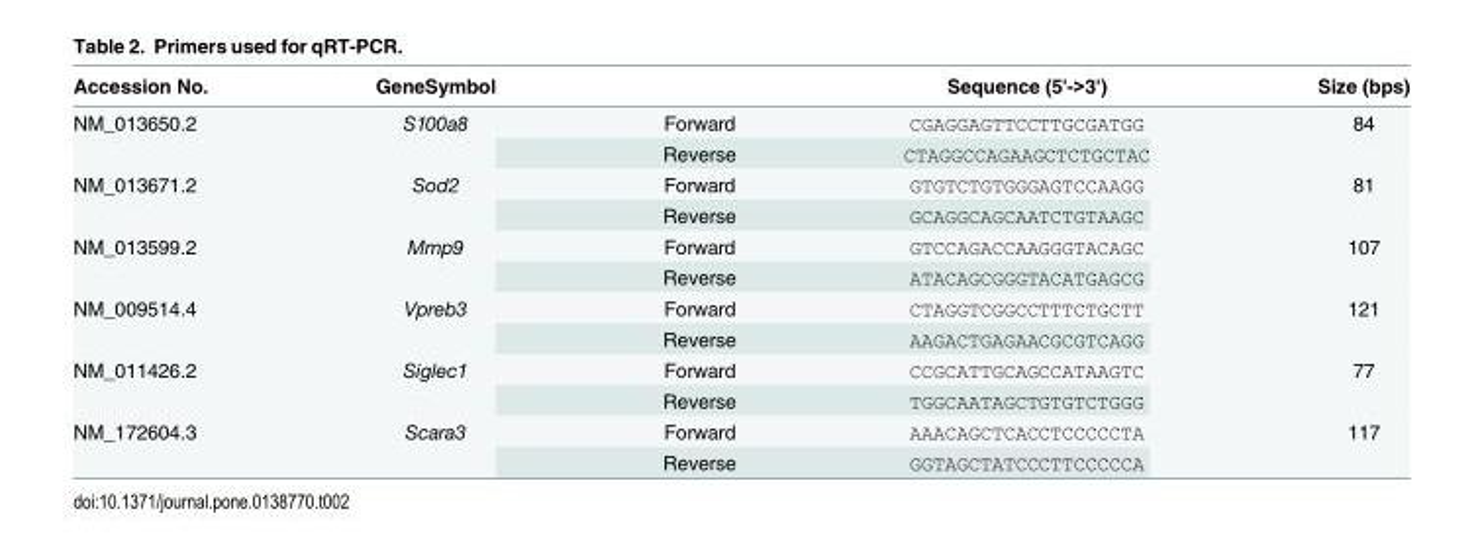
<table><thead><tr><td>Accession No.</td><td>GeneSymbol</td><td></td><td>Sequence (5&#x27;-&gt;3&#x27;)</td><td>Size (bps)</td></tr></thead><tbody><tr><td rowspan="2">NM_013650.2</td><td rowspan="2">S100a8</td><td>Forward</td><td>CGAGGAGTTCCTTGCGATGG</td><td rowspan="2">84</td></tr><tr><td>Reverse</td><td>CTAGGCCAGAAGCTCTGCTAC</td></tr><tr><td rowspan="2">NM_013671.2</td><td rowspan="2">Sod2</td><td>Forward</td><td>GTGTCTGTGGGAGTCCAAGG</td><td rowspan="2">81</td></tr><tr><td>Reverse</td><td>GCAGGCAGCAATCTGTAAGC</td></tr><tr><td rowspan="2">NM_013599.2</td><td rowspan="2">Mmp9</td><td>Forward</td><td>GTCCAGACCAAGGGTACAGC</td><td rowspan="2">107</td></tr><tr><td>Reverse</td><td>ATACAGCGGGTACATGAGCG</td></tr><tr><td rowspan="2">NM_009514.4</td><td rowspan="2">Vpreb3</td><td>Forward</td><td>CTAGGTCGGCCTTTCTGCTT</td><td rowspan="2">121</td></tr><tr><td>Reverse</td><td>AAGACTGAGAACGCGTCAGG</td></tr><tr><td rowspan="2">NM_011426.2</td><td rowspan="2">Siglec1</td><td>Forward</td><td>CCGCATTGCAGCCATAAGTC</td><td rowspan="2">77</td></tr><tr><td>Reverse</td><td>TGGCAATAGCTGTGTCTGGG</td></tr><tr><td rowspan="2">NM_172604.3</td><td rowspan="2">Scara3</td><td>Forward</td><td>AAACAGCTCACCTCCCCCTA</td><td rowspan="2">117</td></tr><tr><td>Reverse</td><td>GGTAGCTATCCCTTCCCCCA</td></tr></tbody></table>